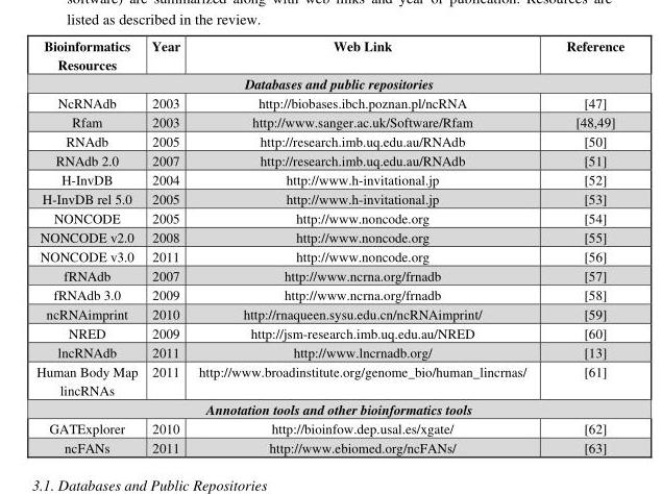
<table><thead><tr><td>Bioinformatics Resources</td><td>Year</td><td>Web Link</td><td>Reference</td></tr></thead><tbody><tr><td colspan="4">Databases and public repositories</td></tr><tr><td>NcRNAdb</td><td>2003</td><td>http://biobases.ibch.poznan.pl/ncRNA</td><td>[47]</td></tr><tr><td>Rfam</td><td>2003</td><td>http://www.sanger.ac.uk/Software/Rfam</td><td>[48,49]</td></tr><tr><td>RNAdb</td><td>2005</td><td>http://research.imb.uq.edu.au/RNAdb</td><td>[50]</td></tr><tr><td>RNAdb 2.0</td><td>2007</td><td>http://research.imb.uq.edu.au/RNAdb</td><td>[51]</td></tr><tr><td>H-InvDB</td><td>2004</td><td>http://www.h-invitational.jp</td><td>[52]</td></tr><tr><td>H-InvDB rel 5.0</td><td>2005</td><td>http://www.h-invitational.jp</td><td>[53]</td></tr><tr><td>NONCODE</td><td>2005</td><td>http://www.noncode.org</td><td>[54]</td></tr><tr><td>NONCODE v2.0</td><td>2008</td><td>http://www.noncode.org</td><td>[55]</td></tr><tr><td>NONCODE v3.0</td><td>2011</td><td>http://www.noncode.org</td><td>[56]</td></tr><tr><td>fRNAdb</td><td>2007</td><td>http://www.ncrna.org/frnadb</td><td>[57]</td></tr><tr><td>fRNAdb 3.0</td><td>2009</td><td>http://www.ncrna.org/frnadb</td><td>[58]</td></tr><tr><td>ncRNAimprint</td><td>2010</td><td>http://rnaqueen.sysu.edu.cn/ncRNAimprint/</td><td>[59]</td></tr><tr><td>NRED</td><td>2009</td><td>http://jsm-research.imb.uq.edu.au/NRED</td><td>[60]</td></tr><tr><td>lncRNAdb</td><td>2011</td><td>http://www.lncrnadb.org/</td><td>[13]</td></tr><tr><td>Human Body Map lincRNAs</td><td>2011</td><td>http://www.broadinstitute.org/genome_bio/human_lincrnas/</td><td>[61]</td></tr><tr><td colspan="4">Annotation tools and other bioinformatics tools</td></tr><tr><td>GATExplorer</td><td>2010</td><td>http://bioinfow.dep.usal.es/xgate/</td><td>[62]</td></tr><tr><td>ncFANs</td><td>2011</td><td>http://www.ebiomed.org/ncFANs/</td><td>[63]</td></tr></tbody></table>